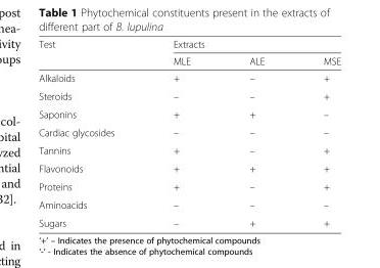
<table><thead><tr><td rowspan="2">Test</td><td colspan="3">Extracts</td></tr><tr><td>MLE</td><td>ALE</td><td>MSE</td></tr></thead><tbody><tr><td>Alkaloids</td><td>+</td><td>–</td><td>+</td></tr><tr><td>Steroids</td><td>–</td><td>–</td><td>+</td></tr><tr><td>Saponins</td><td>+</td><td>+</td><td>–</td></tr><tr><td>Cardiac glycosides</td><td>–</td><td>–</td><td>–</td></tr><tr><td>Tannins</td><td>+</td><td>–</td><td>+</td></tr><tr><td>Flavonoids</td><td>+</td><td>+</td><td>+</td></tr><tr><td>Proteins</td><td>+</td><td>–</td><td>+</td></tr><tr><td>Aminoacids</td><td>–</td><td>–</td><td>–</td></tr><tr><td>Sugars</td><td>–</td><td>+</td><td>+</td></tr></tbody></table>